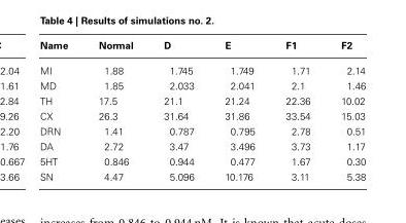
<table><thead><tr><td>Name</td><td>Normal</td><td>D</td><td>E</td><td>F1</td><td>F2</td></tr></thead><tbody><tr><td>MI</td><td>1.88</td><td>1.745</td><td>1.749</td><td>1.71</td><td>2.14</td></tr><tr><td>MD</td><td>1.85</td><td>2.033</td><td>2.041</td><td>2.1</td><td>1.46</td></tr><tr><td>TH</td><td>17.5</td><td>21.1</td><td>21.24</td><td>22.36</td><td>10.02</td></tr><tr><td>CX</td><td>26.3</td><td>31.64</td><td>31.86</td><td>33.54</td><td>15.03</td></tr><tr><td>DRN</td><td>1.41</td><td>0.787</td><td>0.795</td><td>2.78</td><td>0.51</td></tr><tr><td>DA</td><td>2.72</td><td>3.47</td><td>3.496</td><td>3.73</td><td>1.17</td></tr><tr><td>5HT</td><td>0.846</td><td>0.944</td><td>0.477</td><td>1.67</td><td>0.30</td></tr><tr><td>SN</td><td>4.47</td><td>5.096</td><td>10.176</td><td>3.11</td><td>5.38</td></tr></tbody></table>